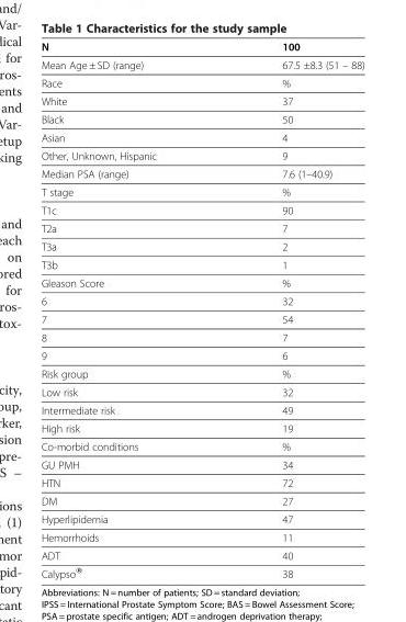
<table><thead><tr><td>N</td><td>100</td></tr></thead><tbody><tr><td>Mean Age ± SD (range)</td><td>67.5 ±8.3 (51 – 88)</td></tr><tr><td>Race</td><td>%</td></tr><tr><td>White</td><td>37</td></tr><tr><td>Black</td><td>50</td></tr><tr><td>Asian</td><td>4</td></tr><tr><td>Other, Unknown, Hispanic</td><td>9</td></tr><tr><td>Median PSA (range)</td><td>7.6 (1–40.9)</td></tr><tr><td>T stage</td><td>%</td></tr><tr><td>T1c</td><td>90</td></tr><tr><td>T2a</td><td>7</td></tr><tr><td>T3a</td><td>2</td></tr><tr><td>T3b</td><td>1</td></tr><tr><td>Gleason Score</td><td>%</td></tr><tr><td>6</td><td>32</td></tr><tr><td>7</td><td>54</td></tr><tr><td>8</td><td>7</td></tr><tr><td>9</td><td>6</td></tr><tr><td>Risk group</td><td>%</td></tr><tr><td>Low risk</td><td>32</td></tr><tr><td>Intermediate risk</td><td>49</td></tr><tr><td>High risk</td><td>19</td></tr><tr><td>Co-morbid conditions</td><td>%</td></tr><tr><td>GU PMH</td><td>34</td></tr><tr><td>HTN</td><td>72</td></tr><tr><td>DM</td><td>27</td></tr><tr><td>Hyperlipidemia</td><td>47</td></tr><tr><td>Hemorrhoids</td><td>11</td></tr><tr><td>ADT</td><td>40</td></tr><tr><td>Calypso®</td><td>38</td></tr></tbody></table>